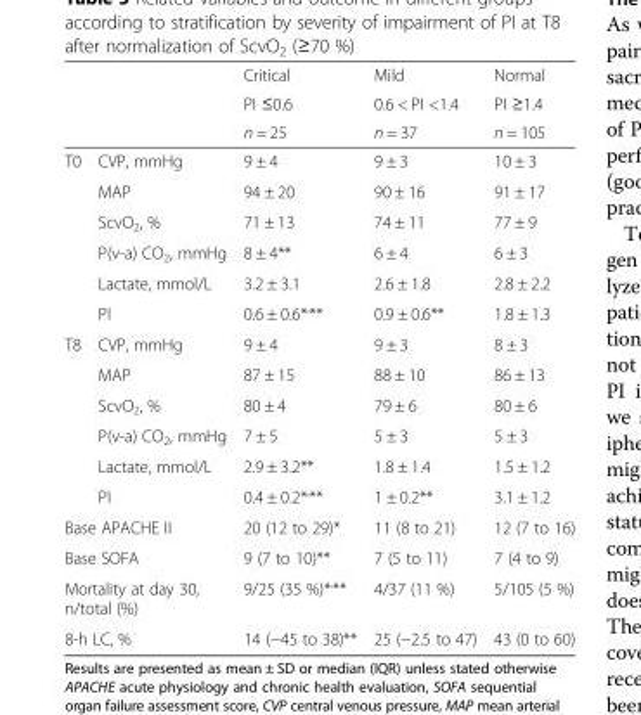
<table><thead><tr><td rowspan="3"></td><td rowspan="3"></td><td rowspan="3">Critical PI ≤0.6 n = 25</td><td rowspan="3">Mild 0.6 &lt; PI &lt;1.4 n = 37</td><td rowspan="3">Normal PI ≥1.4 n = 105</td></tr><tr></tr><tr></tr></thead><tbody><tr><td rowspan="6">T0</td><td>CVP, mmHg</td><td>9 ± 4</td><td>9 ± 3</td><td>10 ± 3</td></tr><tr><td>MAP</td><td>94 ± 20</td><td>90 ± 16</td><td>91 ± 17</td></tr><tr><td>ScvO<sub>2</sub>, %</td><td>71 ± 13</td><td>74 ± 11</td><td>77 ± 9</td></tr><tr><td>P(v-a) CO<sub>2</sub>, mmHg</td><td>8 ± 4**</td><td>6 ± 4</td><td>6 ± 3</td></tr><tr><td>Lactate, mmol/L</td><td>3.2 ± 3.1</td><td>2.6 ± 1.8</td><td>2.8 ± 2.2</td></tr><tr><td>PI</td><td>0.6 ± 0.6*<sup>,</sup>**</td><td>0.9 ± 0.6**</td><td>1.8 ± 1.3</td></tr><tr><td rowspan="6">T8</td><td>CVP, mmHg</td><td>9 ± 4</td><td>9 ± 3</td><td>8 ± 3</td></tr><tr><td>MAP</td><td>87 ± 15</td><td>88 ± 10</td><td>86 ± 13</td></tr><tr><td>ScvO<sub>2</sub>, %</td><td>80 ± 4</td><td>79 ± 6</td><td>80 ± 6</td></tr><tr><td>P(v-a) CO<sub>2</sub>, mmHg</td><td>7 ± 5</td><td>5 ± 3</td><td>5 ± 3</td></tr><tr><td>Lactate, mmol/L</td><td>2.9 ± 3.2**</td><td>1.8 ± 1.4</td><td>1.5 ± 1.2</td></tr><tr><td>PI</td><td>0.4 ± 0.2*<sup>,</sup>**</td><td>1 ± 0.2**</td><td>3.1 ± 1.2</td></tr><tr><td colspan="2">Base APACHE II</td><td>20 (12 to 29)*</td><td>11 (8 to 21)</td><td>12 (7 to 16)</td></tr><tr><td colspan="2">Base SOFA</td><td>9 (7 to 10)**</td><td>7 (5 to 11)</td><td>7 (4 to 9)</td></tr><tr><td colspan="2">Mortality at day 30, n/total (%)</td><td>9/25 (35 %)*<sup>,</sup>**</td><td>4/37 (11 %)</td><td>5/105 (5 %)</td></tr><tr><td colspan="2">8-h LC, %</td><td>14 (−45 to 38)**</td><td>25 (−2.5 to 47)</td><td>43 (0 to 60)</td></tr></tbody></table>